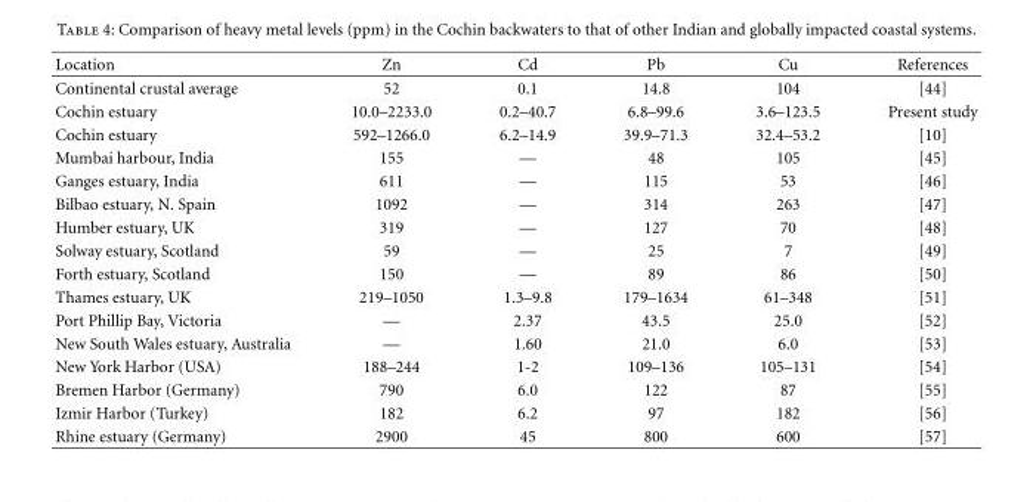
<table><thead><tr><td>Location</td><td>Zn</td><td>Cd</td><td>Pb</td><td>Cu</td><td>References</td></tr></thead><tbody><tr><td>Continental crustal average</td><td>52</td><td>0.1</td><td>14.8</td><td>104</td><td>[44]</td></tr><tr><td>Cochin estuary</td><td>10.0–2233.0</td><td>0.2–40.7</td><td>6.8–99.6</td><td>3.6–123.5</td><td>Present study</td></tr><tr><td>Cochin estuary</td><td>592–1266.0</td><td>6.2–14.9</td><td>39.9–71.3</td><td>32.4–53.2</td><td>[10]</td></tr><tr><td>Mumbai harbour, India</td><td>155</td><td>—</td><td>48</td><td>105</td><td>[45]</td></tr><tr><td>Ganges estuary, India</td><td>611</td><td>—</td><td>115</td><td>53</td><td>[46]</td></tr><tr><td>Bilbao estuary, N. Spain</td><td>1092</td><td>—</td><td>314</td><td>263</td><td>[47]</td></tr><tr><td>Humber estuary, UK</td><td>319</td><td>—</td><td>127</td><td>70</td><td>[48]</td></tr><tr><td>Solway estuary, Scotland</td><td>59</td><td>—</td><td>25</td><td>7</td><td>[49]</td></tr><tr><td>Forth estuary, Scotland</td><td>150</td><td>—</td><td>89</td><td>86</td><td>[50]</td></tr><tr><td>Thames estuary, UK</td><td>219–1050</td><td>1.3–9.8</td><td>179–1634</td><td>61–348</td><td>[51]</td></tr><tr><td>Port Phillip Bay, Victoria</td><td>—</td><td>2.37</td><td>43.5</td><td>25.0</td><td>[52]</td></tr><tr><td>New South Wales estuary, Australia</td><td>—</td><td>1.60</td><td>21.0</td><td>6.0</td><td>[53]</td></tr><tr><td>New York Harbor (USA)</td><td>188–244</td><td>1-2</td><td>109–136</td><td>105–131</td><td>[54]</td></tr><tr><td>Bremen Harbor (Germany)</td><td>790</td><td>6.0</td><td>122</td><td>87</td><td>[55]</td></tr><tr><td>Izmir Harbor (Turkey)</td><td>182</td><td>6.2</td><td>97</td><td>182</td><td>[56]</td></tr><tr><td>Rhine estuary (Germany)</td><td>2900</td><td>45</td><td>800</td><td>600</td><td>[57]</td></tr></tbody></table>